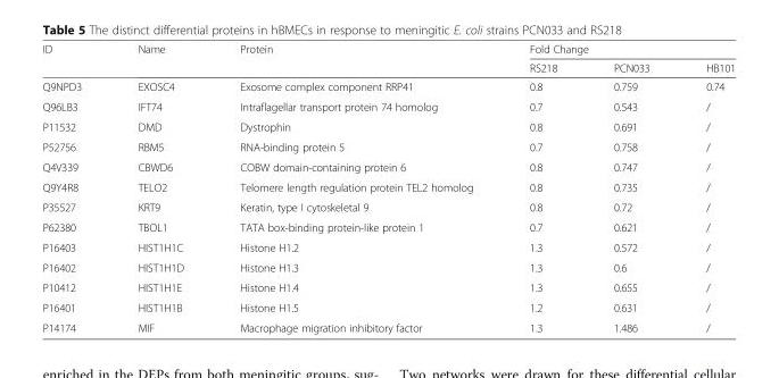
<table><thead><tr><td rowspan="2">ID</td><td rowspan="2">Name</td><td rowspan="2">Protein</td><td colspan="3">Fold Change</td></tr><tr><td>RS218</td><td>PCN033</td><td>HB101</td></tr></thead><tbody><tr><td>Q9NPD3</td><td>EXOSC4</td><td>Exosome complex component RRP41</td><td>0.8</td><td>0.759</td><td>0.74</td></tr><tr><td>Q96LB3</td><td>IFT74</td><td>Intraflagellar transport protein 74 homolog</td><td>0.7</td><td>0.543</td><td>/</td></tr><tr><td>P11532</td><td>DMD</td><td>Dystrophin</td><td>0.8</td><td>0.691</td><td>/</td></tr><tr><td>P52756</td><td>RBM5</td><td>RNA-binding protein 5</td><td>0.7</td><td>0.758</td><td>/</td></tr><tr><td>Q4V339</td><td>CBWD6</td><td>COBW domain-containing protein 6</td><td>0.8</td><td>0.747</td><td>/</td></tr><tr><td>Q9Y4R8</td><td>TELO2</td><td>Telomere length regulation protein TEL2 homolog</td><td>0.8</td><td>0.735</td><td>/</td></tr><tr><td>P35527</td><td>KRT9</td><td>Keratin, type I cytoskeletal 9</td><td>0.8</td><td>0.72</td><td>/</td></tr><tr><td>P62380</td><td>TBOL1</td><td>TATA box-binding protein-like protein 1</td><td>0.7</td><td>0.621</td><td>/</td></tr><tr><td>P16403</td><td>HIST1H1C</td><td>Histone H1.2</td><td>1.3</td><td>0.572</td><td>/</td></tr><tr><td>P16402</td><td>HIST1H1D</td><td>Histone H1.3</td><td>1.3</td><td>0.6</td><td>/</td></tr><tr><td>P10412</td><td>HIST1H1E</td><td>Histone H1.4</td><td>1.3</td><td>0.655</td><td>/</td></tr><tr><td>P16401</td><td>HIST1H1B</td><td>Histone H1.5</td><td>1.2</td><td>0.631</td><td>/</td></tr><tr><td>P14174</td><td>MIF</td><td>Macrophage migration inhibitory factor</td><td>1.3</td><td>1.486</td><td>/</td></tr></tbody></table>